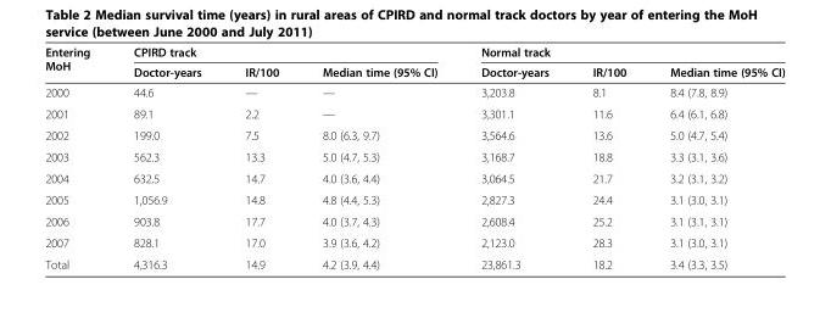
<table><thead><tr><td rowspan="2">Entering MoH</td><td colspan="3">CPIRD track</td><td colspan="3">Normal track</td></tr><tr><td>Doctor-years</td><td>IR/100</td><td>Median time (95% CI)</td><td>Doctor-years</td><td>IR/100</td><td>Median time (95% CI)</td></tr></thead><tbody><tr><td>2000</td><td>44.6</td><td>—</td><td>—</td><td>3,203.8</td><td>8.1</td><td>8.4 (7.8, 8.9)</td></tr><tr><td>2001</td><td>89.1</td><td>2.2</td><td>—</td><td>3,301.1</td><td>11.6</td><td>6.4 (6.1, 6.8)</td></tr><tr><td>2002</td><td>199.0</td><td>7.5</td><td>8.0 (6.3, 9.7)</td><td>3,564.6</td><td>13.6</td><td>5.0 (4.7, 5.4)</td></tr><tr><td>2003</td><td>562.3</td><td>13.3</td><td>5.0 (4.7, 5.3)</td><td>3,168.7</td><td>18.8</td><td>3.3 (3.1, 3.6)</td></tr><tr><td>2004</td><td>632.5</td><td>14.7</td><td>4.0 (3.6, 4.4)</td><td>3,064.5</td><td>21.7</td><td>3.2 (3.1, 3.2)</td></tr><tr><td>2005</td><td>1,056.9</td><td>14.8</td><td>4.8 (4.4, 5.3)</td><td>2,827.3</td><td>24.4</td><td>3.1 (3.0, 3.1)</td></tr><tr><td>2006</td><td>903.8</td><td>17.7</td><td>4.0 (3.7, 4.3)</td><td>2,608.4</td><td>25.2</td><td>3.1 (3.1, 3.1)</td></tr><tr><td>2007</td><td>828.1</td><td>17.0</td><td>3.9 (3.6, 4.2)</td><td>2,123.0</td><td>28.3</td><td>3.1 (3.0, 3.1)</td></tr><tr><td>Total</td><td>4,316.3</td><td>14.9</td><td>4.2 (3.9, 4.4)</td><td>23,861.3</td><td>18.2</td><td>3.4 (3.3, 3.5)</td></tr></tbody></table>